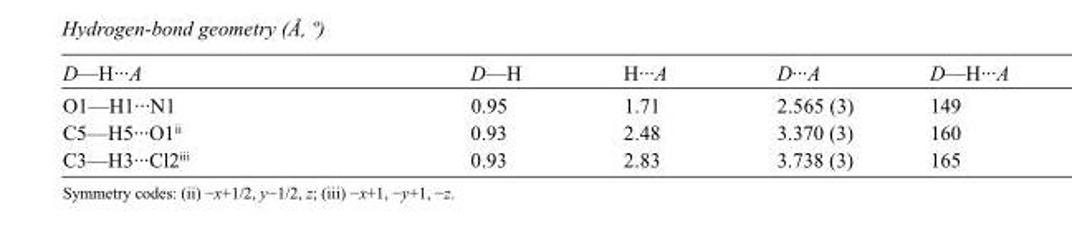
<table><tbody><tr><td>D—H···A</td><td>D—H</td><td>H···A</td><td>D···A</td><td>D—H···A</td></tr><tr><td>O1—H1···N1</td><td>0.95</td><td>1.71</td><td>2.565 (3)</td><td>149</td></tr><tr><td>C5—H5···O1<sup>ii</sup></td><td>0.93</td><td>2.48</td><td>3.370 (3)</td><td>160</td></tr><tr><td>C3—H3···Cl2<sup>iii</sup></td><td>0.93</td><td>2.83</td><td>3.738 (3)</td><td>165</td></tr></tbody></table>